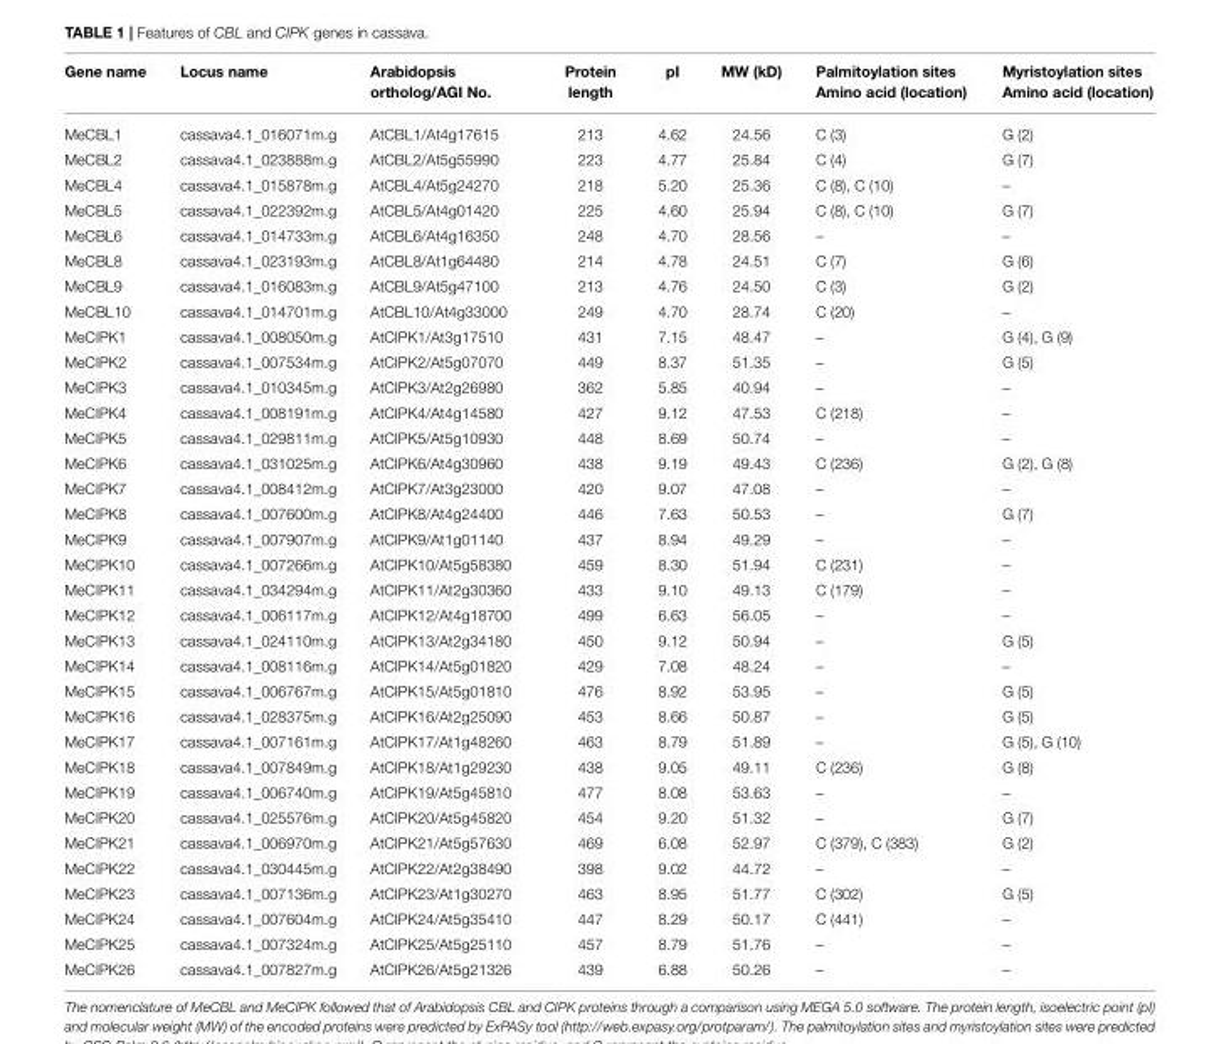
<table><thead><tr><td>Gene name</td><td>Locus name</td><td>Arabidopsis ortholog/AGI No.</td><td>Protein length</td><td>pI</td><td>MW (kD)</td><td>Palmitoylation sites Amino acid (location)</td><td>Myristoylation sites Amino acid (location)</td></tr></thead><tbody><tr><td>MeCBL1</td><td>cassava4.1_016071m.g</td><td>AtCBL1/At4g17615</td><td>213</td><td>4.62</td><td>24.56</td><td>C (3)</td><td>G (2)</td></tr><tr><td>MeCBL2</td><td>cassava4.1_023888m.g</td><td>AtCBL2/At5g55990</td><td>223</td><td>4.77</td><td>25.84</td><td>C (4)</td><td>G (7)</td></tr><tr><td>MeCBL4</td><td>cassava4.1_015878m.g</td><td>AtCBL4/At5g24270</td><td>218</td><td>5.20</td><td>25.36</td><td>C (8), C (10)</td><td>–</td></tr><tr><td>MeCBL5</td><td>cassava4.1_022392m.g</td><td>AtCBL5/At4g01420</td><td>225</td><td>4.60</td><td>25.94</td><td>C (8), C (10)</td><td>G (7)</td></tr><tr><td>MeCBL6</td><td>cassava4.1_014733m.g</td><td>AtCBL6/At4g16350</td><td>248</td><td>4.70</td><td>28.56</td><td>–</td><td>–</td></tr><tr><td>MeCBL8</td><td>cassava4.1_023193m.g</td><td>AtCBL8/At1g64480</td><td>214</td><td>4.78</td><td>24.51</td><td>C (7)</td><td>G (6)</td></tr><tr><td>MeCBL9</td><td>cassava4.1_016083m.g</td><td>AtCBL9/At5g47100</td><td>213</td><td>4.76</td><td>24.50</td><td>C (3)</td><td>G (2)</td></tr><tr><td>MeCBL10</td><td>cassava4.1_014701m.g</td><td>AtCBL10/At4g33000</td><td>249</td><td>4.70</td><td>28.74</td><td>C (20)</td><td>–</td></tr><tr><td>MeCIPK1</td><td>cassava4.1_008050m.g</td><td>AtCIPK1/At3g17510</td><td>431</td><td>7.15</td><td>48.47</td><td>–</td><td>G (4), G (9)</td></tr><tr><td>MeCIPK2</td><td>cassava4.1_007534m.g</td><td>AtCIPK2/At5g07070</td><td>449</td><td>8.37</td><td>51.35</td><td>–</td><td>G (5)</td></tr><tr><td>MeCIPK3</td><td>cassava4.1_010345m.g</td><td>AtCIPK3/At2g26980</td><td>362</td><td>5.85</td><td>40.94</td><td>–</td><td>–</td></tr><tr><td>MeCIPK4</td><td>cassava4.1_008191m.g</td><td>AtCIPK4/At4g14580</td><td>427</td><td>9.12</td><td>47.53</td><td>C (218)</td><td>–</td></tr><tr><td>MeCIPK5</td><td>cassava4.1_029811m.g</td><td>AtCIPK5/At5g10930</td><td>448</td><td>8.69</td><td>50.74</td><td>–</td><td>–</td></tr><tr><td>MeCIPK6</td><td>cassava4.1_031025m.g</td><td>AtCIPK6/At4g30960</td><td>438</td><td>9.19</td><td>49.43</td><td>C (236)</td><td>G (2), G (8)</td></tr><tr><td>MeCIPK7</td><td>cassava4.1_008412m.g</td><td>AtCIPK7/At3g23000</td><td>420</td><td>9.07</td><td>47.08</td><td>–</td><td>–</td></tr><tr><td>MeCIPK8</td><td>cassava4.1_007600m.g</td><td>AtCIPK8/At4g24400</td><td>446</td><td>7.63</td><td>50.53</td><td>–</td><td>G (7)</td></tr><tr><td>MeCIPK9</td><td>cassava4.1_007907m.g</td><td>AtCIPK9/At1g01140</td><td>437</td><td>8.94</td><td>49.29</td><td>–</td><td>–</td></tr><tr><td>MeCIPK10</td><td>cassava4.1_007266m.g</td><td>AtCIPK10/At5g58380</td><td>459</td><td>8.30</td><td>51.94</td><td>C (231)</td><td>–</td></tr><tr><td>MeCIPK11</td><td>cassava4.1_034294m.g</td><td>AtCIPK11/At2g30360</td><td>433</td><td>9.10</td><td>49.13</td><td>C (179)</td><td>–</td></tr><tr><td>MeCIPK12</td><td>cassava4.1_006117m.g</td><td>AtCIPK12/At4g18700</td><td>499</td><td>6.63</td><td>56.05</td><td>–</td><td>–</td></tr><tr><td>MeCIPK13</td><td>cassava4.1_024110m.g</td><td>AtCIPK13/At2g34180</td><td>450</td><td>9.12</td><td>50.94</td><td>–</td><td>G (5)</td></tr><tr><td>MeCIPK14</td><td>cassava4.1_008116m.g</td><td>AtCIPK14/At5g01820</td><td>429</td><td>7.08</td><td>48.24</td><td>–</td><td>–</td></tr><tr><td>MeCIPK15</td><td>cassava4.1_006767m.g</td><td>AtCIPK15/At5g01810</td><td>476</td><td>8.92</td><td>53.95</td><td>–</td><td>G (5)</td></tr><tr><td>MeCIPK16</td><td>cassava4.1_028375m.g</td><td>AtCIPK16/At2g25090</td><td>453</td><td>8.66</td><td>50.87</td><td>–</td><td>G (5)</td></tr><tr><td>MeCIPK17</td><td>cassava4.1_007161m.g</td><td>AtCIPK17/At1g48260</td><td>463</td><td>8.79</td><td>51.89</td><td>–</td><td>G (5), G (10)</td></tr><tr><td>MeCIPK18</td><td>cassava4.1_007849m.g</td><td>AtCIPK18/At1g29230</td><td>438</td><td>9.05</td><td>49.11</td><td>C (236)</td><td>G (8)</td></tr><tr><td>MeCIPK19</td><td>cassava4.1_006740m.g</td><td>AtCIPK19/At5g45810</td><td>477</td><td>8.08</td><td>53.63</td><td>–</td><td>–</td></tr><tr><td>MeCIPK20</td><td>cassava4.1_025576m.g</td><td>AtCIPK20/At5g45820</td><td>454</td><td>9.20</td><td>51.32</td><td>–</td><td>G (7)</td></tr><tr><td>MeCIPK21</td><td>cassava4.1_006970m.g</td><td>AtCIPK21/At5g57630</td><td>469</td><td>6.08</td><td>52.97</td><td>C (379), C (383)</td><td>G (2)</td></tr><tr><td>MeCIPK22</td><td>cassava4.1_030445m.g</td><td>AtCIPK22/At2g38490</td><td>398</td><td>9.02</td><td>44.72</td><td>–</td><td>–</td></tr><tr><td>MeCIPK23</td><td>cassava4.1_007136m.g</td><td>AtCIPK23/At1g30270</td><td>463</td><td>8.95</td><td>51.77</td><td>C (302)</td><td>G (5)</td></tr><tr><td>MeCIPK24</td><td>cassava4.1_007604m.g</td><td>AtCIPK24/At5g35410</td><td>447</td><td>8.29</td><td>50.17</td><td>C (441)</td><td>–</td></tr><tr><td>MeCIPK25</td><td>cassava4.1_007324m.g</td><td>AtCIPK25/At5g25110</td><td>457</td><td>8.79</td><td>51.76</td><td>–</td><td>–</td></tr><tr><td>MeCIPK26</td><td>cassava4.1_007827m.g</td><td>AtCIPK26/At5g21326</td><td>439</td><td>6.88</td><td>50.26</td><td>–</td><td>–</td></tr></tbody></table>